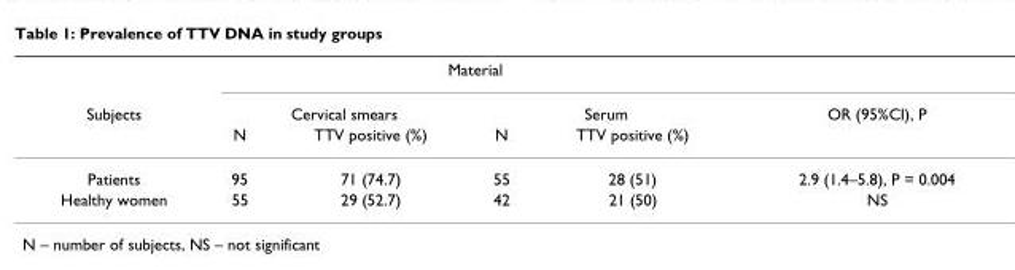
<table><thead><tr><td rowspan="3">Subjects</td><td colspan="4">Material</td><td rowspan="3">OR (95%CI), P</td></tr><tr><td colspan="2">Cervical smears</td><td colspan="2">Serum</td></tr><tr><td>N</td><td>TTV positive (%)</td><td>N</td><td>TTV positive (%)</td></tr></thead><tbody><tr><td>Patients</td><td>95</td><td>71 (74.7)</td><td>55</td><td>28 (51)</td><td>2.9 (1.4–5.8), P = 0.004</td></tr><tr><td>Healthy women</td><td>55</td><td>29 (52.7)</td><td>42</td><td>21 (50)</td><td>NS</td></tr></tbody></table>